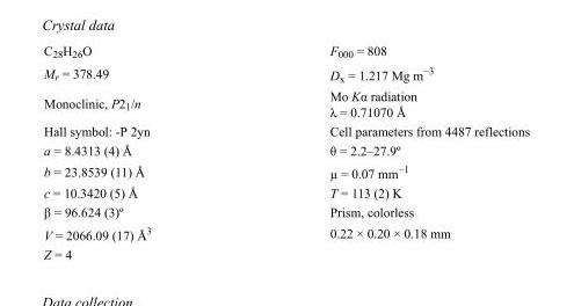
<table><tbody><tr><td>C<sub>28</sub>H<sub>26</sub>O</td><td>F<sub>000</sub> = 808</td></tr><tr><td>M<sub>r</sub> = 378.49</td><td>D<sub>x</sub> = 1.217 Mg m<sup>−3</sup></td></tr><tr><td>Monoclinic, P2<sub>1</sub>/n</td><td>Mo Kα radiation λ = 0.71070 Å</td></tr><tr><td>Hall symbol: -P 2yn</td><td>Cell parameters from 4487 reflections</td></tr><tr><td>a = 8.4313 (4) Å</td><td>θ = 2.2–27.9º</td></tr><tr><td>b = 23.8539 (11) Å</td><td>µ = 0.07 mm<sup>−1</sup></td></tr><tr><td>c = 10.3420 (5) Å</td><td>T = 113 (2) K</td></tr><tr><td>β = 96.624 (3)º</td><td>Prism, colorless</td></tr><tr><td>V = 2066.09 (17) Å<sup>3</sup></td><td>0.22 × 0.20 × 0.18 mm</td></tr><tr><td>Z = 4</td><td></td></tr></tbody></table>